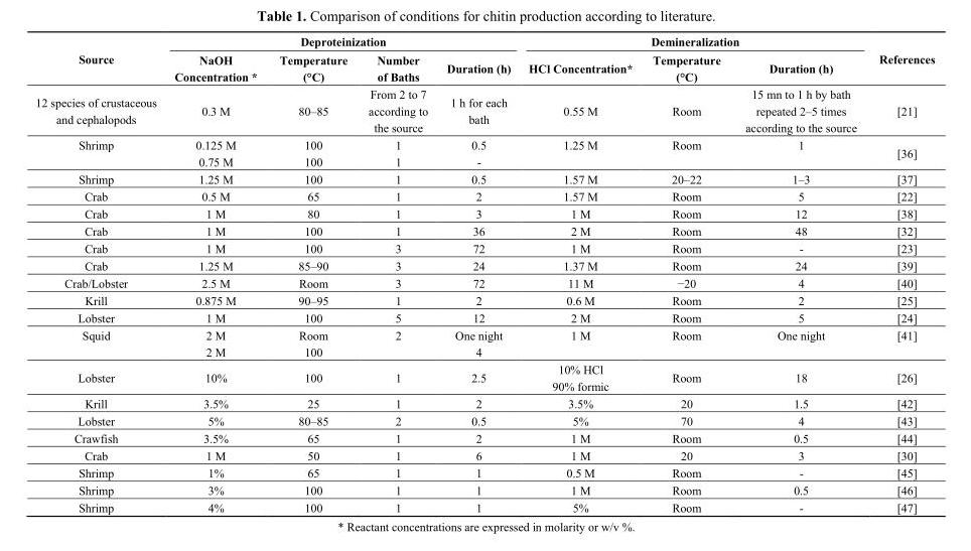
<table><thead><tr><td rowspan="2">Source</td><td colspan="4">Deproteinization</td><td colspan="3">Demineralization</td><td rowspan="2">References</td></tr><tr><td>NaOH Concentration *</td><td>Temperature (°C)</td><td>Number of Baths</td><td>Duration (h)</td><td>HCl Concentration*</td><td>Temperature (°C)</td><td>Duration (h)</td></tr></thead><tbody><tr><td>12 species of crustaceous and cephalopods</td><td>0.3 M</td><td>80–85</td><td>From 2 to 7 according to the source</td><td>1 h for each bath</td><td>0.55 M</td><td>Room</td><td>15 mn to 1 h by bath repeated 2–5 times according to the source</td><td>[21]</td></tr><tr><td rowspan="2">Shrimp</td><td>0.125 M</td><td>100</td><td>1</td><td>0.5</td><td>1.25 M</td><td>Room</td><td>1</td><td rowspan="2">[36]</td></tr><tr><td>0.75 M</td><td>100</td><td>1</td><td>-</td><td></td><td></td><td></td></tr><tr><td>Shrimp</td><td>1.25 M</td><td>100</td><td>1</td><td>0.5</td><td>1.57 M</td><td>20–22</td><td>1–3</td><td>[37]</td></tr><tr><td>Crab</td><td>0.5 M</td><td>65</td><td>1</td><td>2</td><td>1.57 M</td><td>Room</td><td>5</td><td>[22]</td></tr><tr><td>Crab</td><td>1 M</td><td>80</td><td>1</td><td>3</td><td>1 M</td><td>Room</td><td>12</td><td>[38]</td></tr><tr><td>Crab</td><td>1 M</td><td>100</td><td>1</td><td>36</td><td>2 M</td><td>Room</td><td>48</td><td>[32]</td></tr><tr><td>Crab</td><td>1 M</td><td>100</td><td>3</td><td>72</td><td>1 M</td><td>Room</td><td>-</td><td>[23]</td></tr><tr><td>Crab</td><td>1.25 M</td><td>85–90</td><td>3</td><td>24</td><td>1.37 M</td><td>Room</td><td>24</td><td>[39]</td></tr><tr><td>Crab/Lobster</td><td>2.5 M</td><td>Room</td><td>3</td><td>72</td><td>11 M</td><td>−20</td><td>4</td><td>[40]</td></tr><tr><td>Krill</td><td>0.875 M</td><td>90–95</td><td>1</td><td>2</td><td>0.6 M</td><td>Room</td><td>2</td><td>[25]</td></tr><tr><td>Lobster</td><td>1 M</td><td>100</td><td>5</td><td>12</td><td>2 M</td><td>Room</td><td>5</td><td>[24]</td></tr><tr><td rowspan="2">Squid</td><td>2 M</td><td>Room</td><td>2</td><td>One night</td><td>1 M</td><td>Room</td><td>One night</td><td>[41]</td></tr><tr><td>2 M</td><td>100</td><td></td><td>4</td><td></td><td></td><td></td><td></td></tr><tr><td>Lobster</td><td>10%</td><td>100</td><td>1</td><td>2.5</td><td>10% HCl 90% formic</td><td>Room</td><td>18</td><td>[26]</td></tr><tr><td>Krill</td><td>3.5%</td><td>25</td><td>1</td><td>2</td><td>3.5%</td><td>20</td><td>1.5</td><td>[42]</td></tr><tr><td>Lobster</td><td>5%</td><td>80–85</td><td>2</td><td>0.5</td><td>5%</td><td>70</td><td>4</td><td>[43]</td></tr><tr><td>Crawfish</td><td>3.5%</td><td>65</td><td>1</td><td>2</td><td>1 M</td><td>Room</td><td>0.5</td><td>[44]</td></tr><tr><td>Crab</td><td>1 M</td><td>50</td><td>1</td><td>6</td><td>1 M</td><td>20</td><td>3</td><td>[30]</td></tr><tr><td>Shrimp</td><td>1%</td><td>65</td><td>1</td><td>1</td><td>0.5 M</td><td>Room</td><td>-</td><td>[45]</td></tr><tr><td>Shrimp</td><td>3%</td><td>100</td><td>1</td><td>1</td><td>1 M</td><td>Room</td><td>0.5</td><td>[46]</td></tr><tr><td>Shrimp</td><td>4%</td><td>100</td><td>1</td><td>1</td><td>5%</td><td>Room</td><td>-</td><td>[47]</td></tr></tbody></table>